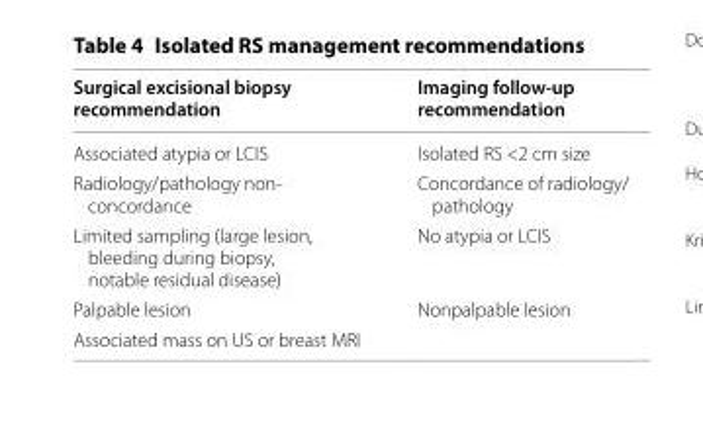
<table><thead><tr><td>Surgical excisional biopsy recommendation</td><td>Imaging follow-up recommendation</td></tr></thead><tbody><tr><td>Associated atypia or LCIS</td><td>Isolated RS &lt;2 cm size</td></tr><tr><td>Radiology/pathology non- concordance</td><td>Concordance of radiology/ pathology</td></tr><tr><td>Limited sampling (large lesion, bleeding during biopsy, notable residual disease)</td><td>No atypia or LCIS</td></tr><tr><td>Palpable lesion</td><td>Nonpalpable lesion</td></tr><tr><td>Associated mass on US or breast MRI</td><td></td></tr></tbody></table>